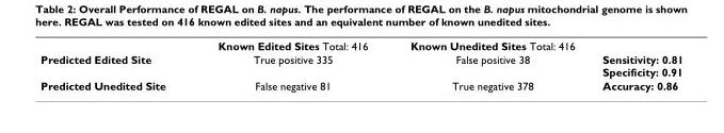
<table><thead><tr><td></td><td>Known Edited Sites Total: 416</td><td>Known Unedited Sites Total: 416</td><td></td></tr></thead><tbody><tr><td>Predicted Edited Site</td><td>True positive 335</td><td>False positive 38</td><td>Sensitivity: 0.81 Specificity: 0.91</td></tr><tr><td>Predicted Unedited Site</td><td>False negative 81</td><td>True negative 378</td><td>Accuracy: 0.86</td></tr></tbody></table>